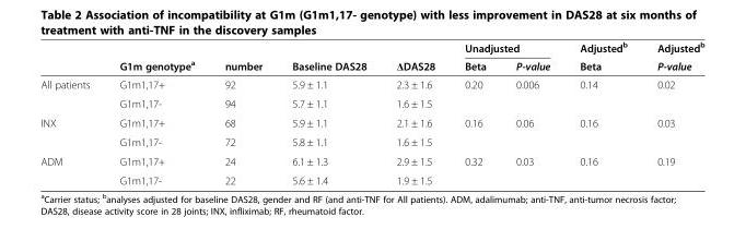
<table><thead><tr><td rowspan="2"></td><td rowspan="2">G1m genotype<sup>a</sup></td><td rowspan="2">number</td><td rowspan="2">Baseline DAS28</td><td rowspan="2">ΔDAS28</td><td colspan="2">Unadjusted</td><td rowspan="2">Adjusted<sup>b</sup> Beta</td><td rowspan="2">Adjusted<sup>b</sup> P-value</td></tr><tr><td>Beta</td><td>P-value</td></tr></thead><tbody><tr><td rowspan="2">All patients</td><td>G1m1,17+</td><td>92</td><td>5.9 ± 1.1</td><td>2.3 ± 1.6</td><td>0.20</td><td>0.006</td><td>0.14</td><td>0.02</td></tr><tr><td>G1m1,17-</td><td>94</td><td>5.7 ± 1.1</td><td>1.6 ± 1.5</td><td></td><td></td><td></td><td></td></tr><tr><td rowspan="2">INX</td><td>G1m1,17+</td><td>68</td><td>5.9 ± 1.1</td><td>2.1 ± 1.6</td><td>0.16</td><td>0.06</td><td>0.16</td><td>0.03</td></tr><tr><td>G1m1,17-</td><td>72</td><td>5.8 ± 1.1</td><td>1.6 ± 1.5</td><td></td><td></td><td></td><td></td></tr><tr><td rowspan="2">ADM</td><td>G1m1,17+</td><td>24</td><td>6.1 ± 1.3</td><td>2.9 ± 1.5</td><td>0.32</td><td>0.03</td><td>0.16</td><td>0.19</td></tr><tr><td>G1m1,17-</td><td>22</td><td>5.6 ± 1.4</td><td>1.9 ± 1.5</td><td></td><td></td><td></td><td></td></tr></tbody></table>